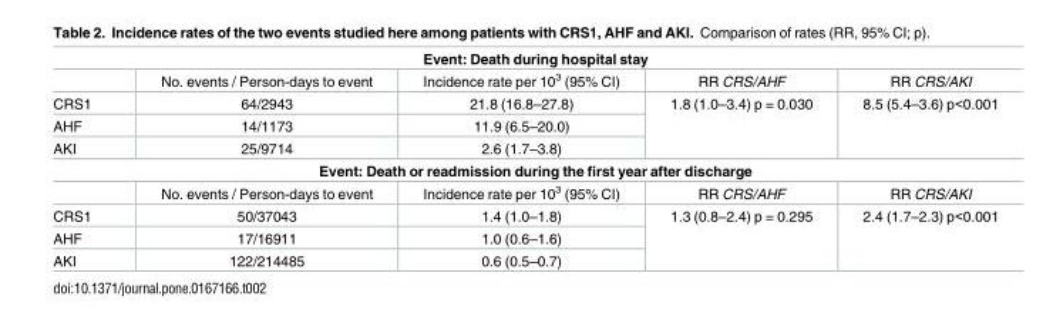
<table><tbody><tr><td colspan="5">Event: Death during hospital stay</td></tr><tr><td></td><td>No. events / Person-days to event</td><td>Incidence rate per 10<sup>3</sup> (95% CI)</td><td>RR CRS/AHF</td><td>RR CRS/AKI</td></tr><tr><td>CRS1</td><td>64/2943</td><td>21.8 (16.8–27.8)</td><td rowspan="3">1.8 (1.0–3.4) p = 0.030</td><td rowspan="3">8.5 (5.4–3.6) p&lt;0.001</td></tr><tr><td>AHF</td><td>14/1173</td><td>11.9 (6.5–20.0)</td></tr><tr><td>AKI</td><td>25/9714</td><td>2.6 (1.7–3.8)</td></tr><tr><td colspan="5">Event: Death or readmission during the first year after discharge</td></tr><tr><td></td><td>No. events / Person-days to event</td><td>Incidence rate per 10<sup>3</sup> (95% CI)</td><td>RR CRS/AHF</td><td>RR CRS/AKI</td></tr><tr><td>CRS1</td><td>50/37043</td><td>1.4 (1.0–1.8)</td><td rowspan="3">1.3 (0.8–2.4) p = 0.295</td><td rowspan="3">2.4 (1.7–2.3) p&lt;0.001</td></tr><tr><td>AHF</td><td>17/16911</td><td>1.0 (0.6–1.6)</td></tr><tr><td>AKI</td><td>122/214485</td><td>0.6 (0.5–0.7)</td></tr></tbody></table>